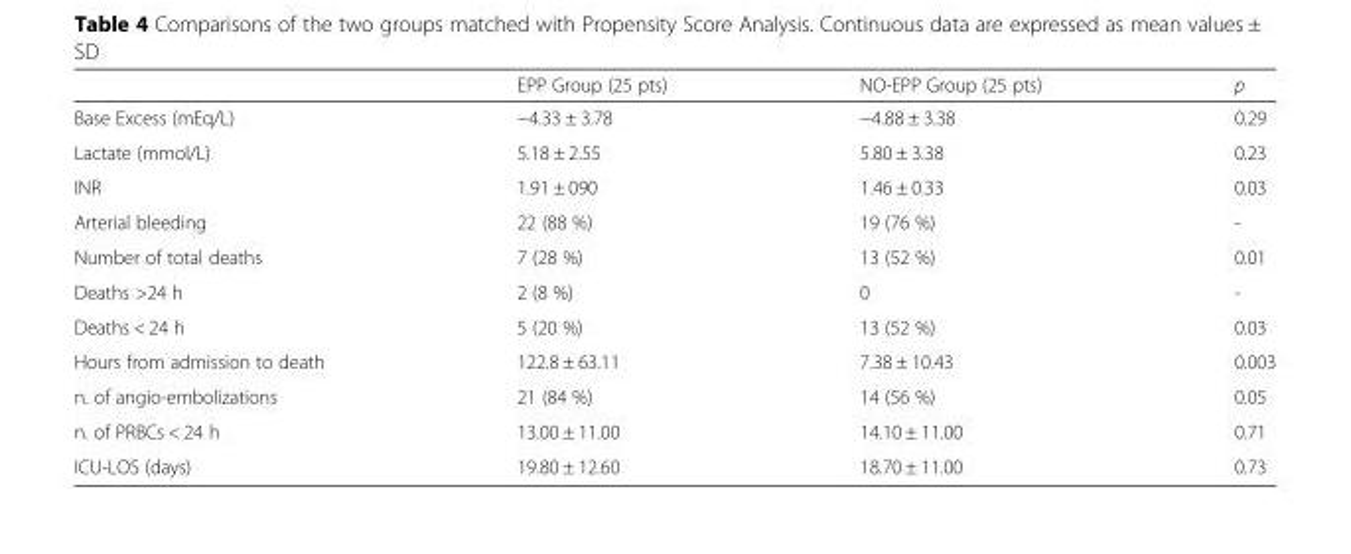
<table><thead><tr><td></td><td>EPP Group (25 pts)</td><td>NO-EPP Group (25 pts)</td><td>p</td></tr></thead><tbody><tr><td>Base Excess (mEq/L)</td><td>−4.33 ± 3.78</td><td>−4.88 ± 3.38</td><td>0.29</td></tr><tr><td>Lactate (mmol/L)</td><td>5.18 ± 2.55</td><td>5.80 ± 3.38</td><td>0.23</td></tr><tr><td>INR</td><td>1.91 ± 090</td><td>1.46 ± 0.33</td><td>0.03</td></tr><tr><td>Arterial bleeding</td><td>22 (88 %)</td><td>19 (76 %)</td><td>-</td></tr><tr><td>Number of total deaths</td><td>7 (28 %)</td><td>13 (52 %)</td><td>0.01</td></tr><tr><td>Deaths &gt;24 h</td><td>2 (8 %)</td><td>0</td><td>-</td></tr><tr><td>Deaths &lt; 24 h</td><td>5 (20 %)</td><td>13 (52 %)</td><td>0.03</td></tr><tr><td>Hours from admission to death</td><td>122.8 ± 63.11</td><td>7.38 ± 10.43</td><td>0.003</td></tr><tr><td>n. of angio-embolizations</td><td>21 (84 %)</td><td>14 (56 %)</td><td>0.05</td></tr><tr><td>n. of PRBCs &lt; 24 h</td><td>13.00 ± 11.00</td><td>14.10 ± 11.00</td><td>0.71</td></tr><tr><td>ICU-LOS (days)</td><td>19.80 ± 12.60</td><td>18.70 ± 11.00</td><td>0.73</td></tr></tbody></table>